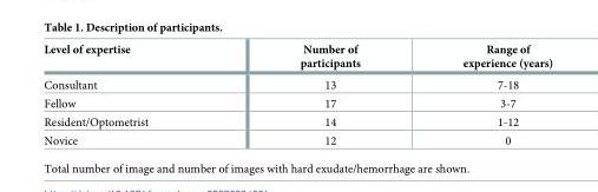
<table><thead><tr><td>Level of expertise</td><td>Number of participants</td><td>Range of experience (years)</td></tr></thead><tbody><tr><td>Consultant</td><td>13</td><td>7-18</td></tr><tr><td>Fellow</td><td>17</td><td>3-7</td></tr><tr><td>Resident/Optometrist</td><td>14</td><td>1-12</td></tr><tr><td>Novice</td><td>12</td><td>0</td></tr></tbody></table>